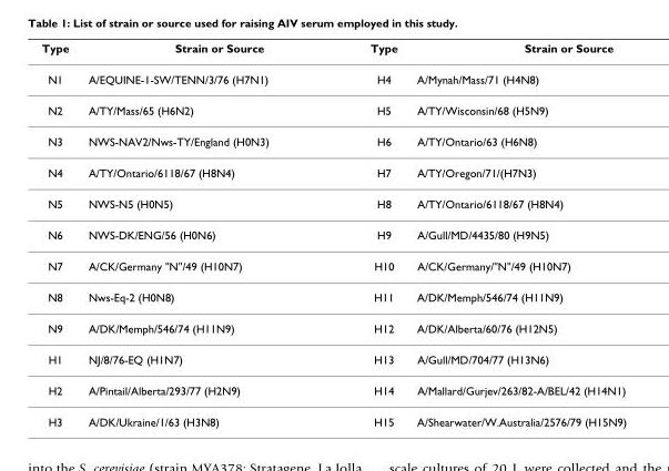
<table><thead><tr><td>Type</td><td>Strain or Source</td><td>Type</td><td>Strain or Source</td></tr></thead><tbody><tr><td>N1</td><td>A/EQUINE-1-SW/TENN/3/76 (H7N1)</td><td>H4</td><td>A/Mynah/Mass/71 (H4N8)</td></tr><tr><td>N2</td><td>A/TY/Mass/65 (H6N2)</td><td>H5</td><td>A/TY/Wisconsin/68 (H5N9)</td></tr><tr><td>N3</td><td>NWS-NAV2/Nws-TY/England (H0N3)</td><td>H6</td><td>A/TY/Ontario/63 (H6N8)</td></tr><tr><td>N4</td><td>A/TY/Ontario/6118/67 (H8N4)</td><td>H7</td><td>A/TY/Oregon/71/(H7N3)</td></tr><tr><td>N5</td><td>NWS-N5 (H0N5)</td><td>H8</td><td>A/TY/Ontario/6118/67 (H8N4)</td></tr><tr><td>N6</td><td>NWS-DK/ENG/56 (H0N6)</td><td>H9</td><td>A/Gull/MD/4435/80 (H9N5)</td></tr><tr><td>N7</td><td>A/CK/Germany &quot;N&quot;/49 (H10N7)</td><td>H10</td><td>A/CK/Germany/&quot;N&quot;/49 (H10N7)</td></tr><tr><td>N8</td><td>Nws-Eq-2 (H0N8)</td><td>H11</td><td>A/DK/Memph/546/74 (H11N9)</td></tr><tr><td>N9</td><td>A/DK/Memph/546/74 (H11N9)</td><td>H12</td><td>A/DK/Alberta/60/76 (H12N5)</td></tr><tr><td>H1</td><td>NJ/8/76-EQ (H1N7)</td><td>H13</td><td>A/Gull/MD/704/77 (H13N6)</td></tr><tr><td>H2</td><td>A/Pintail/Alberta/293/77 (H2N9)</td><td>H14</td><td>A/Mallard/Gurjev/263/82-A/BEL/42 (H14N1)</td></tr><tr><td>H3</td><td>A/DK/Ukraine/1/63 (H3N8)</td><td>H15</td><td>A/Shearwater/W.Australia/2576/79 (H15N9)</td></tr></tbody></table>